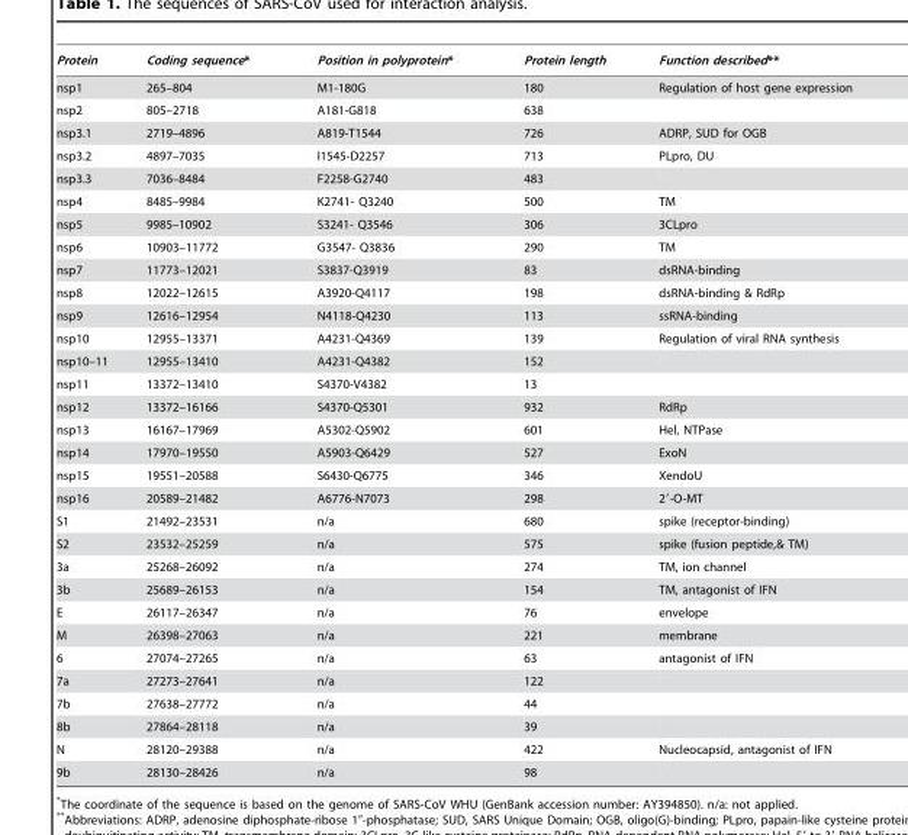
<table><thead><tr><td>Protein</td><td>Coding sequence*</td><td>Position in polyprotein*</td><td>Protein length</td><td>Function described**</td></tr></thead><tbody><tr><td>nsp1</td><td>265–804</td><td>M1-180G</td><td>180</td><td>Regulation of host gene expression</td></tr><tr><td>nsp2</td><td>805–2718</td><td>A181-G818</td><td>638</td><td></td></tr><tr><td>nsp3.1</td><td>2719–4896</td><td>A819-T1544</td><td>726</td><td>ADRP, SUD for OGB</td></tr><tr><td>nsp3.2</td><td>4897–7035</td><td>I1545-D2257</td><td>713</td><td>PLpro, DU</td></tr><tr><td>nsp3.3</td><td>7036–8484</td><td>F2258-G2740</td><td>483</td><td></td></tr><tr><td>nsp4</td><td>8485–9984</td><td>K2741- Q3240</td><td>500</td><td>TM</td></tr><tr><td>nsp5</td><td>9985–10902</td><td>S3241- Q3546</td><td>306</td><td>3CLpro</td></tr><tr><td>nsp6</td><td>10903–11772</td><td>G3547- Q3836</td><td>290</td><td>TM</td></tr><tr><td>nsp7</td><td>11773–12021</td><td>S3837-Q3919</td><td>83</td><td>dsRNA-binding</td></tr><tr><td>nsp8</td><td>12022–12615</td><td>A3920-Q4117</td><td>198</td><td>dsRNA-binding &amp; RdRp</td></tr><tr><td>nsp9</td><td>12616–12954</td><td>N4118-Q4230</td><td>113</td><td>ssRNA-binding</td></tr><tr><td>nsp10</td><td>12955–13371</td><td>A4231-Q4369</td><td>139</td><td>Regulation of viral RNA synthesis</td></tr><tr><td>nsp10–11</td><td>12955–13410</td><td>A4231-Q4382</td><td>152</td><td></td></tr><tr><td>nsp11</td><td>13372–13410</td><td>S4370-V4382</td><td>13</td><td></td></tr><tr><td>nsp12</td><td>13372–16166</td><td>S4370-Q5301</td><td>932</td><td>RdRp</td></tr><tr><td>nsp13</td><td>16167–17969</td><td>A5302-Q5902</td><td>601</td><td>Hel, NTPase</td></tr><tr><td>nsp14</td><td>17970–19550</td><td>A5903-Q6429</td><td>527</td><td>ExoN</td></tr><tr><td>nsp15</td><td>19551–20588</td><td>S6430-Q6775</td><td>346</td><td>XendoU</td></tr><tr><td>nsp16</td><td>20589–21482</td><td>A6776-N7073</td><td>298</td><td>2′-O-MT</td></tr><tr><td>S1</td><td>21492–23531</td><td>n/a</td><td>680</td><td>spike (receptor-binding)</td></tr><tr><td>S2</td><td>23532–25259</td><td>n/a</td><td>575</td><td>spike (fusion peptide,&amp; TM)</td></tr><tr><td>3a</td><td>25268–26092</td><td>n/a</td><td>274</td><td>TM, ion channel</td></tr><tr><td>3b</td><td>25689–26153</td><td>n/a</td><td>154</td><td>TM, antagonist of IFN</td></tr><tr><td>E</td><td>26117–26347</td><td>n/a</td><td>76</td><td>envelope</td></tr><tr><td>M</td><td>26398–27063</td><td>n/a</td><td>221</td><td>membrane</td></tr><tr><td>6</td><td>27074–27265</td><td>n/a</td><td>63</td><td>antagonist of IFN</td></tr><tr><td>7a</td><td>27273–27641</td><td>n/a</td><td>122</td><td></td></tr><tr><td>7b</td><td>27638–27772</td><td>n/a</td><td>44</td><td></td></tr><tr><td>8b</td><td>27864–28118</td><td>n/a</td><td>39</td><td></td></tr><tr><td>N</td><td>28120–29388</td><td>n/a</td><td>422</td><td>Nucleocapsid, antagonist of IFN</td></tr><tr><td>9b</td><td>28130–28426</td><td>n/a</td><td>98</td><td></td></tr></tbody></table>